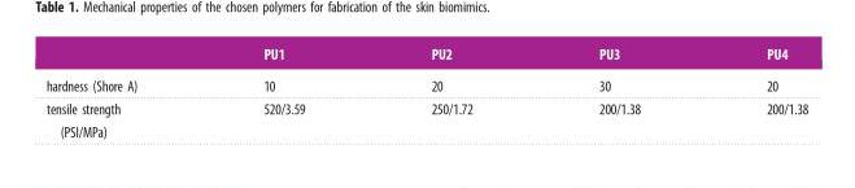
<table><thead><tr><td></td><td>PU1</td><td>PU2</td><td>PU3</td><td>PU4</td></tr></thead><tbody><tr><td>hardness (Shore A)</td><td>10</td><td>20</td><td>30</td><td>20</td></tr><tr><td>tensile strength (PSI/MPa)</td><td>520/3.59</td><td>250/1.72</td><td>200/1.38</td><td>200/1.38</td></tr></tbody></table>